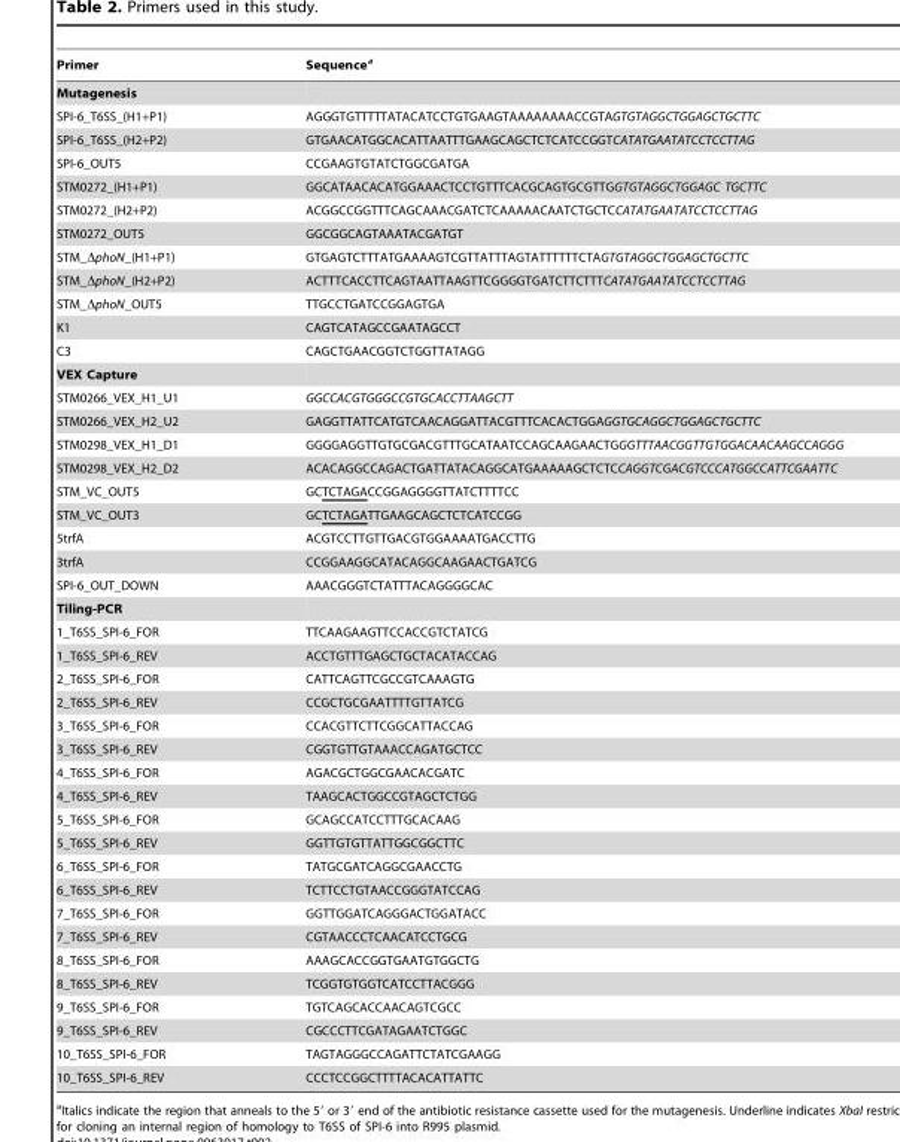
<table><thead><tr><td>Primer</td><td>Sequence<sup>a</sup></td></tr></thead><tbody><tr><td colspan="2">Mutagenesis</td></tr><tr><td>SPI-6_T6SS_(H1+P1)</td><td>AGGGTGTTTTTATACATCCTGTGAAGTAAAAAAAACCGTAGTGTAGGCTGGAGCTGCTTC</td></tr><tr><td>SPI-6_T6SS_(H2+P2)</td><td>GTGAACATGGCACATTAATTTGAAGCAGCTCTCATCCGGTCATATGAATATCCTCCTTAG</td></tr><tr><td>SPI-6_OUT5</td><td>CCGAAGTGTATCTGGCGATGA</td></tr><tr><td>STM0272_(H1+P1)</td><td>GGCATAACACATGGAAACTCCTGTTTCACGCAGTGCGTTGGTGTAGGCTGGAGC TGCTTC</td></tr><tr><td>STM0272_(H2+P2)</td><td>ACGGCCGGTTTCAGCAAACGATCTCAAAAACAATCTGCTCCATATGAATATCCTCCTTAG</td></tr><tr><td>STM0272_OUT5</td><td>GGCGGCAGTAAATACGATGT</td></tr><tr><td>STM_ΔphoN_(H1+P1)</td><td>GTGAGTCTTTATGAAAAGTCGTTATTTAGTATTTTTTCTAGTGTAGGCTGGAGCTGCTTC</td></tr><tr><td>STM_ΔphoN_(H2+P2)</td><td>ACTTTCACCTTCAGTAATTAAGTTCGGGGTGATCTTCTTTCATATGAATATCCTCCTTAG</td></tr><tr><td>STM_ΔphoN_OUT5</td><td>TTGCCTGATCCGGAGTGA</td></tr><tr><td>K1</td><td>CAGTCATAGCCGAATAGCCT</td></tr><tr><td>C3</td><td>CAGCTGAACGGTCTGGTTATAGG</td></tr><tr><td colspan="2">VEX Capture</td></tr><tr><td>STM0266_VEX_H1_U1</td><td>GGCCACGTGGGCCGTGCACCTTAAGCTT</td></tr><tr><td>STM0266_VEX_H2_U2</td><td>GAGGTTATTCATGTCAACAGGATTACGTTTCACACTGGAGGTGCAGGCTGGAGCTGCTTC</td></tr><tr><td>STM0298_VEX_H1_D1</td><td>GGGGAGGTTGTGCGACGTTTGCATAATCCAGCAAGAACTGGGTTTAACGGTTGTGGACAACAAGCCAGGG</td></tr><tr><td>STM0298_VEX_H2_D2</td><td>ACACAGGCCAGACTGATTATACAGGCATGAAAAAGCTCTCCAGGTCGACGTCCCATGGCCATTCGAATTC</td></tr><tr><td>STM_VC_OUT5</td><td>GCTCTAGACCGGAGGGGTTATCTTTTCC</td></tr><tr><td>STM_VC_OUT3</td><td>GCTCTAGATTGAAGCAGCTCTCATCCGG</td></tr><tr><td>5trfA</td><td>ACGTCCTTGTTGACGTGGAAAATGACCTTG</td></tr><tr><td>3trfA</td><td>CCGGAAGGCATACAGGCAAGAACTGATCG</td></tr><tr><td>SPI-6_OUT_DOWN</td><td>AAACGGGTCTATTTACAGGGGCAC</td></tr><tr><td colspan="2">Tiling-PCR</td></tr><tr><td>1_T6SS_SPI-6_FOR</td><td>TTCAAGAAGTTCCACCGTCTATCG</td></tr><tr><td>1_T6SS_SPI-6_REV</td><td>ACCTGTTTGAGCTGCTACATACCAG</td></tr><tr><td>2_T6SS_SPI-6_FOR</td><td>CATTCAGTTCGCCGTCAAAGTG</td></tr><tr><td>2_T6SS_SPI-6_REV</td><td>CCGCTGCGAATTTTGTTATCG</td></tr><tr><td>3_T6SS_SPI-6_FOR</td><td>CCACGTTCTTCGGCATTACCAG</td></tr><tr><td>3_T6SS_SPI-6_REV</td><td>CGGTGTTGTAAACCAGATGCTCC</td></tr><tr><td>4_T6SS_SPI-6_FOR</td><td>AGACGCTGGCGAACACGATC</td></tr><tr><td>4_T6SS_SPI-6_REV</td><td>TAAGCACTGGCCGTAGCTCTGG</td></tr><tr><td>5_T6SS_SPI-6_FOR</td><td>GCAGCCATCCTTTGCACAAG</td></tr><tr><td>5_T6SS_SPI-6_REV</td><td>GGTTGTGTTATTGGCGGCTTC</td></tr><tr><td>6_T6SS_SPI-6_FOR</td><td>TATGCGATCAGGCGAACCTG</td></tr><tr><td>6_T6SS_SPI-6_REV</td><td>TCTTCCTGTAACCGGGTATCCAG</td></tr><tr><td>7_T6SS_SPI-6_FOR</td><td>GGTTGGATCAGGGACTGGATACC</td></tr><tr><td>7_T6SS_SPI-6_REV</td><td>CGTAACCCTCAACATCCTGCG</td></tr><tr><td>8_T6SS_SPI-6_FOR</td><td>AAAGCACCGGTGAATGTGGCTG</td></tr><tr><td>8_T6SS_SPI-6_REV</td><td>TCGGTGTGGTCATCCTTACGGG</td></tr><tr><td>9_T6SS_SPI-6_FOR</td><td>TGTCAGCACCAACAGTCGCC</td></tr><tr><td>9_T6SS_SPI-6_REV</td><td>CGCCCTTCGATAGAATCTGGC</td></tr><tr><td>10_T6SS_SPI-6_FOR</td><td>TAGTAGGGCCAGATTCTATCGAAGG</td></tr><tr><td>10_T6SS_SPI-6_REV</td><td>CCCTCCGGCTTTTACACATTATTC</td></tr></tbody></table>